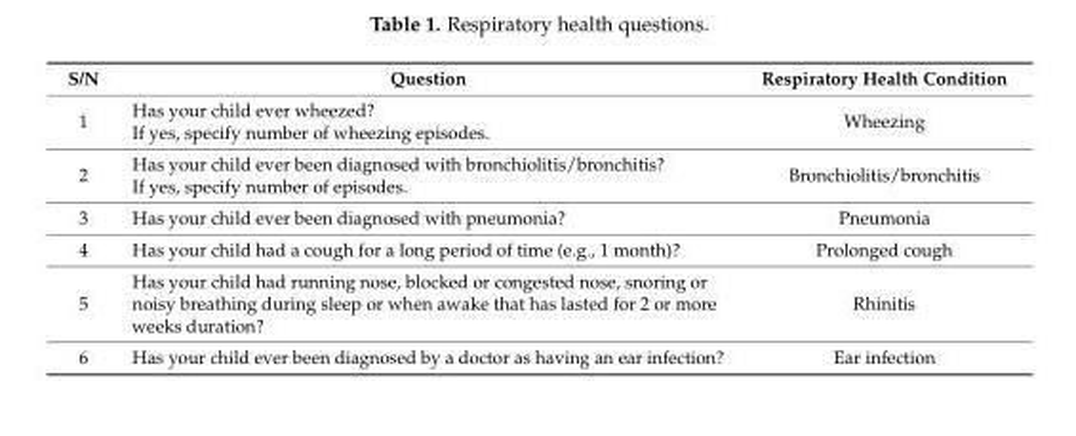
<table><thead><tr><td>S/N</td><td>Question</td><td>Respiratory Health Condition</td></tr></thead><tbody><tr><td>1</td><td>Has your child ever wheezed? If yes, specify number of wheezing episodes.</td><td>Wheezing</td></tr><tr><td>2</td><td>Has your child ever been diagnosed with bronchiolitis/bronchitis? If yes, specify number of episodes.</td><td>Bronchiolitis/bronchitis</td></tr><tr><td>3</td><td>Has your child ever been diagnosed with pneumonia?</td><td>Pneumonia</td></tr><tr><td>4</td><td>Has your child had a cough for a long period of time (e.g., 1 month)?</td><td>Prolonged cough</td></tr><tr><td>5</td><td>Has your child had running nose, blocked or congested nose, snoring or noisy breathing during sleep or when awake that has lasted for 2 or more weeks duration?</td><td>Rhinitis</td></tr><tr><td>6</td><td>Has your child ever been diagnosed by a doctor as having an ear infection?</td><td>Ear infection</td></tr></tbody></table>